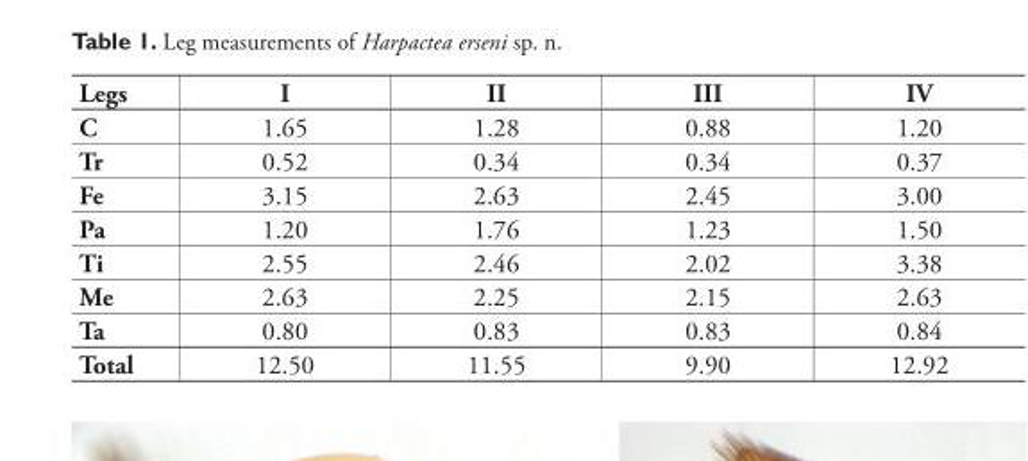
<table><thead><tr><td>Legs</td><td>I</td><td>II</td><td>III</td><td>IV</td></tr></thead><tbody><tr><td>C</td><td>1.65</td><td>1.28</td><td>0.88</td><td>1.20</td></tr><tr><td>Tr</td><td>0.52</td><td>0.34</td><td>0.34</td><td>0.37</td></tr><tr><td>Fe</td><td>3.15</td><td>2.63</td><td>2.45</td><td>3.00</td></tr><tr><td>Pa</td><td>1.20</td><td>1.76</td><td>1.23</td><td>1.50</td></tr><tr><td>Ti</td><td>2.55</td><td>2.46</td><td>2.02</td><td>3.38</td></tr><tr><td>Me</td><td>2.63</td><td>2.25</td><td>2.15</td><td>2.63</td></tr><tr><td>Ta</td><td>0.80</td><td>0.83</td><td>0.83</td><td>0.84</td></tr><tr><td>Total</td><td>12.50</td><td>11.55</td><td>9.90</td><td>12.92</td></tr></tbody></table>